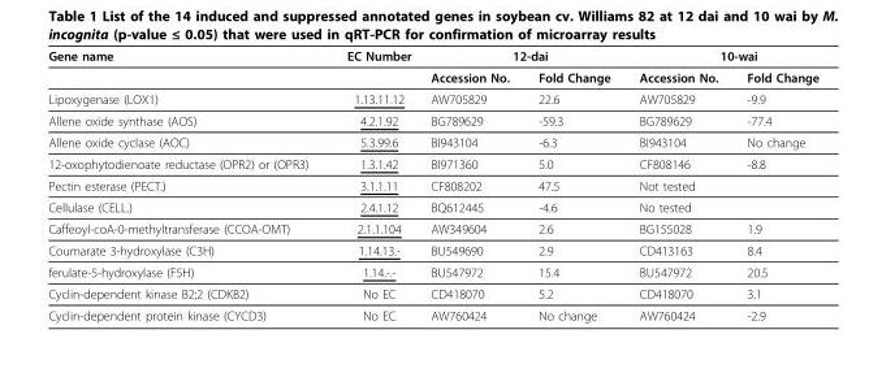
<table><thead><tr><td rowspan="2">Gene name</td><td rowspan="2">EC Number</td><td colspan="2">12-dai</td><td colspan="2">10-wai</td></tr><tr><td>Accession No.</td><td>Fold Change</td><td>Accession No.</td><td>Fold Change</td></tr></thead><tbody><tr><td>Lipoxygenase (LOX1)</td><td>1.13.11.12</td><td>AW705829</td><td>22.6</td><td>AW705829</td><td>-9.9</td></tr><tr><td>Allene oxide synthase (AOS)</td><td>4.2.1.92</td><td>BG789629</td><td>-59.3</td><td>BG789629</td><td>-77.4</td></tr><tr><td>Allene oxide cyclase (AOC)</td><td>5.3.99.6</td><td>BI943104</td><td>-6.3</td><td>BI943104</td><td>No change</td></tr><tr><td>12-oxophytodienoate reductase (OPR2) or (OPR3)</td><td>1.3.1.42</td><td>BI971360</td><td>5.0</td><td>CF808146</td><td>-8.8</td></tr><tr><td>Pectin esterase (PECT.)</td><td>3.1.1.11</td><td>CF808202</td><td>47.5</td><td>Not tested</td><td></td></tr><tr><td>Cellulase (CELL.)</td><td>2.4.1.12</td><td>BQ612445</td><td>-4.6</td><td>No tested</td><td></td></tr><tr><td>Caffeoyl-coA-0-methyltransferase (CCOA-OMT)</td><td>2.1.1.104</td><td>AW349604</td><td>2.6</td><td>BG155028</td><td>1.9</td></tr><tr><td>Coumarate 3-hydroxylase (C3H)</td><td>1.14.13.-</td><td>BU549690</td><td>2.9</td><td>CD413163</td><td>8.4</td></tr><tr><td>ferulate-5-hydroxylase (F5H)</td><td>1.14.-.-</td><td>BU547972</td><td>15.4</td><td>BU547972</td><td>20.5</td></tr><tr><td>Cyclin-dependent kinase B2;2 (CDKB2)</td><td>No EC</td><td>CD418070</td><td>5.2</td><td>CD418070</td><td>3.1</td></tr><tr><td>Cyclin-dependent protein kinase (CYCD3)</td><td>No EC</td><td>AW760424</td><td>No change</td><td>AW760424</td><td>-2.9</td></tr></tbody></table>